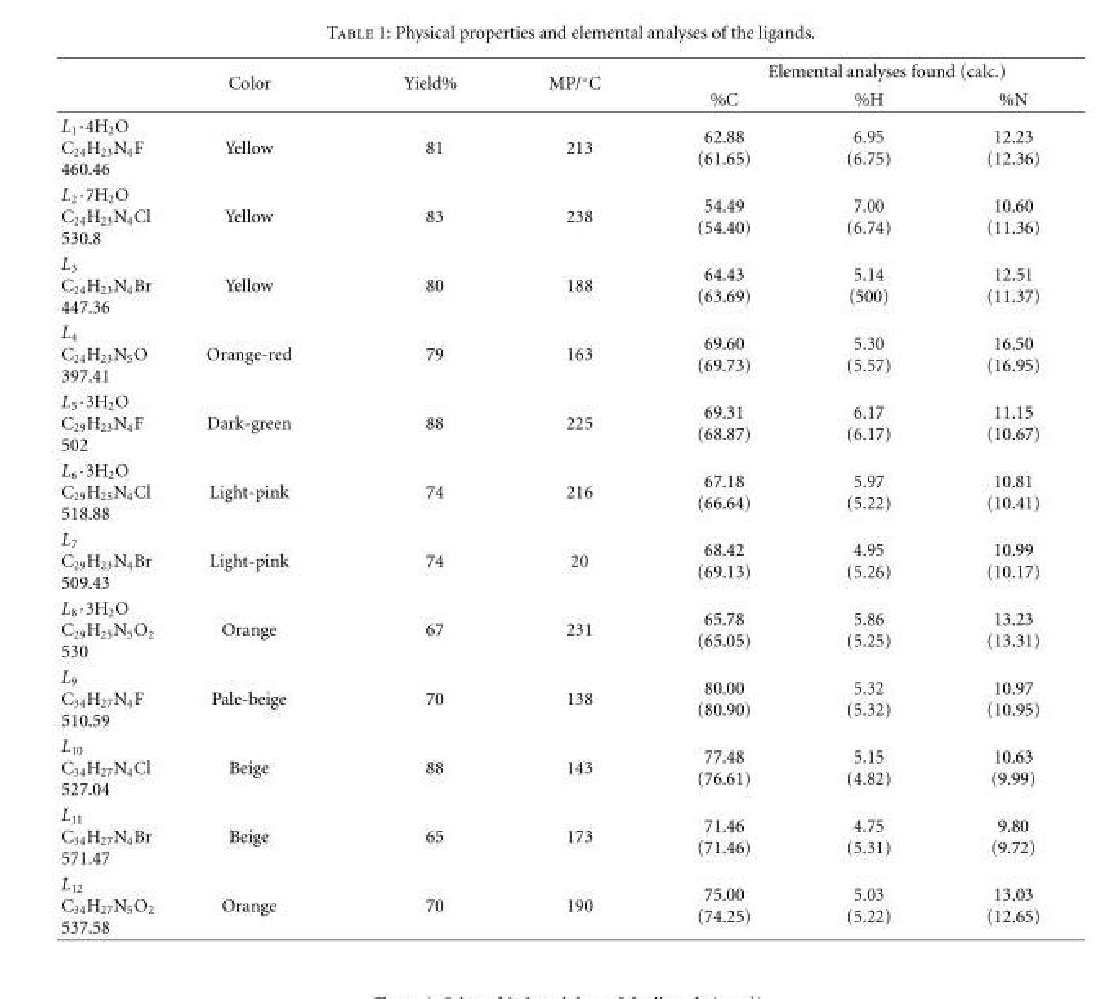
<table><thead><tr><td rowspan="2"></td><td rowspan="2">Color</td><td rowspan="2">Yield%</td><td rowspan="2">MP/◦C</td><td colspan="3">Elemental analyses found (calc.)</td></tr><tr><td>%C</td><td>%H</td><td>%N</td></tr></thead><tbody><tr><td>L<sub>1</sub>·4H<sub>2</sub>O C<sub>24</sub>H<sub>23</sub>N<sub>4</sub>F 460.46</td><td>Yellow</td><td>81</td><td>213</td><td>62.88 (61.65)</td><td>6.95 (6.75)</td><td>12.23 (12.36)</td></tr><tr><td>L<sub>2</sub>·7H<sub>2</sub>O C<sub>24</sub>H<sub>23</sub>N<sub>4</sub>Cl 530.8</td><td>Yellow</td><td>83</td><td>238</td><td>54.49 (54.40)</td><td>7.00 (6.74)</td><td>10.60 (11.36)</td></tr><tr><td>L<sub>3</sub> C<sub>24</sub>H<sub>23</sub>N<sub>4</sub>Br 447.36</td><td>Yellow</td><td>80</td><td>188</td><td>64.43 (63.69)</td><td>5.14 (500)</td><td>12.51 (11.37)</td></tr><tr><td>L<sub>4</sub> C<sub>24</sub>H<sub>23</sub>N<sub>5</sub>O 397.41</td><td>Orange-red</td><td>79</td><td>163</td><td>69.60 (69.73)</td><td>5.30 (5.57)</td><td>16.50 (16.95)</td></tr><tr><td>L<sub>5</sub>·3H<sub>2</sub>O C<sub>29</sub>H<sub>23</sub>N<sub>4</sub>F 502</td><td>Dark-green</td><td>88</td><td>225</td><td>69.31 (68.87)</td><td>6.17 (6.17)</td><td>11.15 (10.67)</td></tr><tr><td>L<sub>6</sub>·3H<sub>2</sub>O C<sub>29</sub>H<sub>25</sub>N<sub>4</sub>Cl 518.88</td><td>Light-pink</td><td>74</td><td>216</td><td>67.18 (66.64)</td><td>5.97 (5.22)</td><td>10.81 (10.41)</td></tr><tr><td>L<sub>7</sub> C<sub>29</sub>H<sub>23</sub>N<sub>4</sub>Br 509.43</td><td>Light-pink</td><td>74</td><td>20</td><td>68.42 (69.13)</td><td>4.95 (5.26)</td><td>10.99 (10.17)</td></tr><tr><td>L<sub>8</sub>·3H<sub>2</sub>O C<sub>29</sub>H<sub>25</sub>N<sub>5</sub>O<sub>2</sub> 530</td><td>Orange</td><td>67</td><td>231</td><td>65.78 (65.05)</td><td>5.86 (5.25)</td><td>13.23 (13.31)</td></tr><tr><td>L<sub>9</sub> C<sub>34</sub>H<sub>27</sub>N<sub>4</sub>F 510.59</td><td>Pale-beige</td><td>70</td><td>138</td><td>80.00 (80.90)</td><td>5.32 (5.32)</td><td>10.97 (10.95)</td></tr><tr><td>L<sub>10</sub> C<sub>34</sub>H<sub>27</sub>N<sub>4</sub>Cl 527.04</td><td>Beige</td><td>88</td><td>143</td><td>77.48 (76.61)</td><td>5.15 (4.82)</td><td>10.63 (9.99)</td></tr><tr><td>L<sub>11</sub> C<sub>34</sub>H<sub>27</sub>N<sub>4</sub>Br 571.47</td><td>Beige</td><td>65</td><td>173</td><td>71.46 (71.46)</td><td>4.75 (5.31)</td><td>9.80 (9.72)</td></tr><tr><td>L<sub>12</sub> C<sub>34</sub>H<sub>27</sub>N<sub>5</sub>O<sub>2</sub> 537.58</td><td>Orange</td><td>70</td><td>190</td><td>75.00 (74.25)</td><td>5.03 (5.22)</td><td>13.03 (12.65)</td></tr></tbody></table>